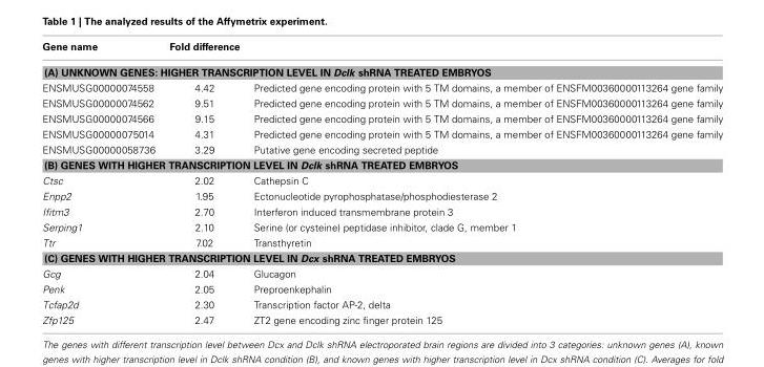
<table><thead><tr><td>Gene name</td><td>Fold difference</td><td></td></tr></thead><tbody><tr><td colspan="3">(A) UNKNOWN GENES: HIGHER TRANSCRIPTION LEVEL IN Dclk shRNA TREATED EMBRYOS</td></tr><tr><td>ENSMUSG00000074558</td><td>4.42</td><td>Predicted gene encoding protein with 5 TM domains, a member of ENSFM00360000113264 gene family</td></tr><tr><td>ENSMUSG00000074562</td><td>9.51</td><td>Predicted gene encoding protein with 5 TM domains, a member of ENSFM00360000113264 gene family</td></tr><tr><td>ENSMUSG00000074566</td><td>9.15</td><td>Predicted gene encoding protein with 5 TM domains, a member of ENSFM00360000113264 gene family</td></tr><tr><td>ENSMUSG00000075014</td><td>4.31</td><td>Predicted gene encoding protein with 5 TM domains, a member of ENSFM00360000113264 gene family</td></tr><tr><td>ENSMUSG00000058736</td><td>3.29</td><td>Putative gene encoding secreted peptide</td></tr><tr><td colspan="3">(B) GENES WITH HIGHER TRANSCRIPTION LEVEL IN Dclk shRNA TREATED EMBRYOS</td></tr><tr><td>Ctsc</td><td>2.02</td><td>Cathepsin C</td></tr><tr><td>Enpp2</td><td>1.95</td><td>Ectonucleotide pyrophosphatase/phosphodiesterase 2</td></tr><tr><td>Ifitm3</td><td>2.70</td><td>Interferon induced transmembrane protein 3</td></tr><tr><td>Serping1</td><td>2.10</td><td>Serine (or cysteine) peptidase inhibitor, clade G, member 1</td></tr><tr><td>Ttr</td><td>7.02</td><td>Transthyretin</td></tr><tr><td colspan="3">(C) GENES WITH HIGHER TRANSCRIPTION LEVEL IN Dcx shRNA TREATED EMBRYOS</td></tr><tr><td>Gcg</td><td>2.04</td><td>Glucagon</td></tr><tr><td>Penk</td><td>2.05</td><td>Preproenkephalin</td></tr><tr><td>Tcfap2d</td><td>2.30</td><td>Transcription factor AP-2, delta</td></tr><tr><td>Zfp125</td><td>2.47</td><td>ZT2 gene encoding zinc finger protein 125</td></tr></tbody></table>